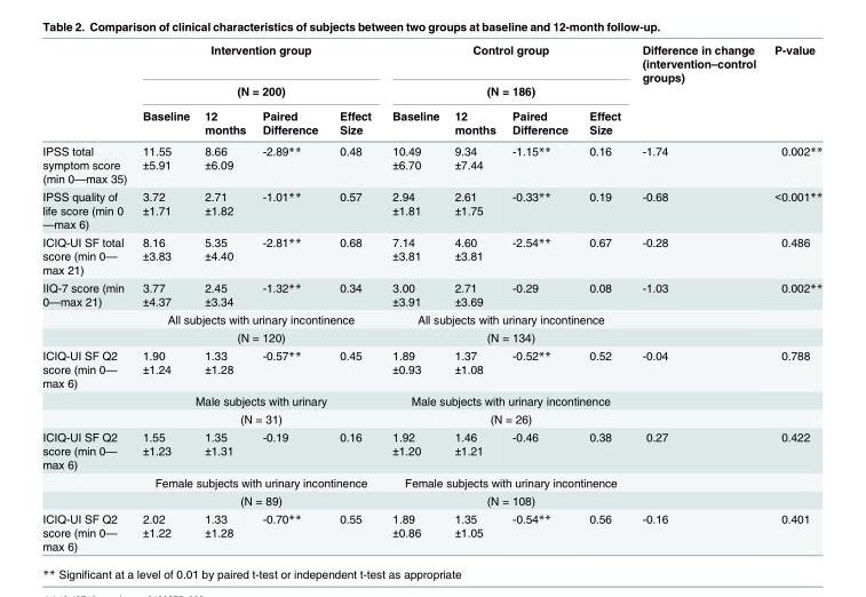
<table><thead><tr><td rowspan="3"></td><td rowspan="2" colspan="4">Intervention group (N = 200)</td><td rowspan="2" colspan="4">Control group (N = 186)</td><td rowspan="3">Difference in change (intervention–control groups)</td><td rowspan="3">P-value</td></tr><tr></tr><tr><td>Baseline</td><td>12 months</td><td>Paired Difference</td><td>Effect Size</td><td>Baseline</td><td>12 months</td><td>Paired Difference</td><td>Effect Size</td></tr></thead><tbody><tr><td>IPSS total symptom score (min 0—max 35)</td><td>11.55 ±5.91</td><td>8.66 ±6.09</td><td>-2.89**</td><td>0.48</td><td>10.49 ±6.70</td><td>9.34 ±7.44</td><td>-1.15**</td><td>0.16</td><td>-1.74</td><td>0.002**</td></tr><tr><td>IPSS quality of life score (min 0 —max 6)</td><td>3.72 ±1.71</td><td>2.71 ±1.82</td><td>-1.01**</td><td>0.57</td><td>2.94 ±1.81</td><td>2.61 ±1.75</td><td>-0.33**</td><td>0.19</td><td>-0.68</td><td>&lt;0.001**</td></tr><tr><td>ICIQ-UI SF total score (min 0— max 21)</td><td>8.16 ±3.83</td><td>5.35 ±4.40</td><td>-2.81**</td><td>0.68</td><td>7.14 ±3.81</td><td>4.60 ±3.81</td><td>-2.54**</td><td>0.67</td><td>-0.28</td><td>0.486</td></tr><tr><td rowspan="3">IIQ-7 score (min 0—max 21)</td><td>3.77 ±4.37</td><td>2.45 ±3.34</td><td>-1.32**</td><td>0.34</td><td>3.00 ±3.91</td><td>2.71 ±3.69</td><td>-0.29</td><td>0.08</td><td>-1.03</td><td>0.002**</td></tr><tr><td colspan="4">All subjects with urinary incontinence</td><td colspan="4">All subjects with urinary incontinence</td><td></td><td></td></tr><tr><td colspan="4">(N = 120)</td><td colspan="4">(N = 134)</td><td></td><td></td></tr><tr><td rowspan="3">ICIQ-UI SF Q2 score (min 0— max 6)</td><td>1.90 ±1.24</td><td>1.33 ±1.28</td><td>-0.57**</td><td>0.45</td><td>1.89 ±0.93</td><td>1.37 ±1.08</td><td>-0.52**</td><td>0.52</td><td>-0.04</td><td>0.788</td></tr><tr><td colspan="4">Male subjects with urinary</td><td colspan="4">Male subjects with urinary incontinence</td><td></td><td></td></tr><tr><td colspan="4">(N = 31)</td><td colspan="4">(N = 26)</td><td></td><td></td></tr><tr><td rowspan="3">ICIQ-UI SF Q2 score (min 0— max 6)</td><td>1.55 ±1.23</td><td>1.35 ±1.31</td><td>-0.19</td><td>0.16</td><td>1.92 ±1.20</td><td>1.46 ±1.21</td><td>-0.46</td><td>0.38</td><td>0.27</td><td>0.422</td></tr><tr><td colspan="4">Female subjects with urinary incontinence</td><td colspan="4">Female subjects with urinary incontinence</td><td></td><td></td></tr><tr><td colspan="4">(N = 89)</td><td colspan="4">(N = 108)</td><td></td><td></td></tr><tr><td>ICIQ-UI SF Q2 score (min 0— max 6)</td><td>2.02 ±1.22</td><td>1.33 ±1.28</td><td>-0.70**</td><td>0.55</td><td>1.89 ±0.86</td><td>1.35 ±1.05</td><td>-0.54**</td><td>0.56</td><td>-0.16</td><td>0.401</td></tr></tbody></table>